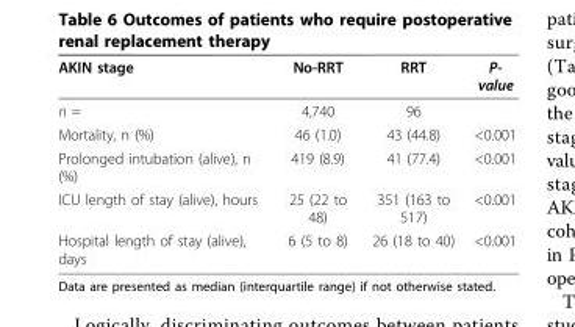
<table><thead><tr><td>AKIN stage</td><td>No-RRT</td><td>RRT</td><td>P- value</td></tr></thead><tbody><tr><td>n =</td><td>4,740</td><td>96</td><td></td></tr><tr><td>Mortality, n (%)</td><td>46 (1.0)</td><td>43 (44.8)</td><td>&lt;0.001</td></tr><tr><td>Prolonged intubation (alive), n (%)</td><td>419 (8.9)</td><td>41 (77.4)</td><td>&lt;0.001</td></tr><tr><td>ICU length of stay (alive), hours</td><td>25 (22 to 48)</td><td>351 (163 to 517)</td><td>&lt;0.001</td></tr><tr><td>Hospital length of stay (alive), days</td><td>6 (5 to 8)</td><td>26 (18 to 40)</td><td>&lt;0.001</td></tr></tbody></table>